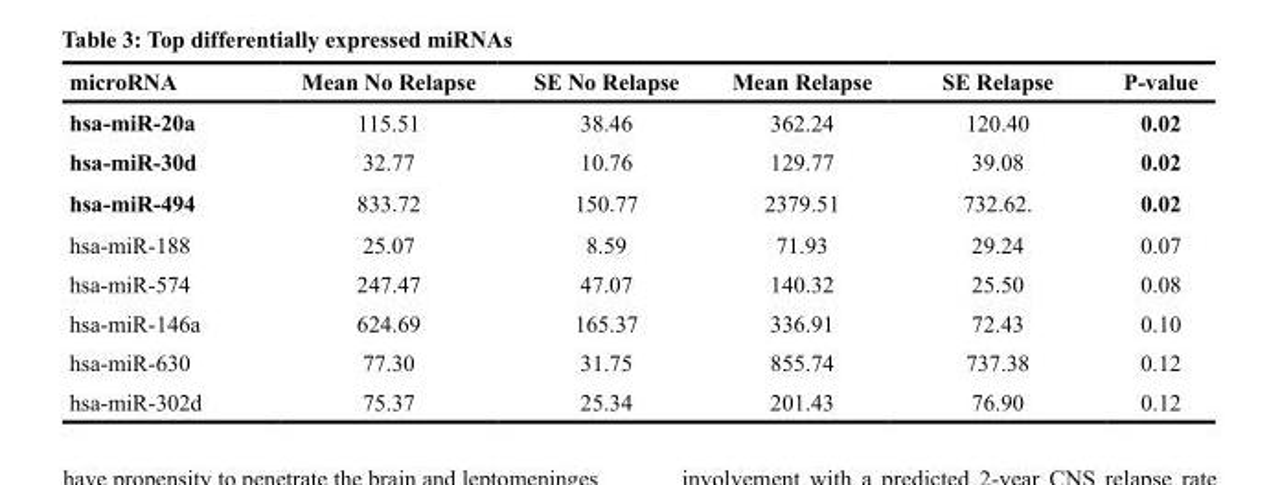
<table><thead><tr><td>microRNA</td><td>Mean No Relapse</td><td>SE No Relapse</td><td>Mean Relapse</td><td>SE Relapse</td><td>P-value</td></tr></thead><tbody><tr><td>hsa-miR-20a</td><td>115.51</td><td>38.46</td><td>362.24</td><td>120.40</td><td>0.02</td></tr><tr><td>hsa-miR-30d</td><td>32.77</td><td>10.76</td><td>129.77</td><td>39.08</td><td>0.02</td></tr><tr><td>hsa-miR-494</td><td>833.72</td><td>150.77</td><td>2379.51</td><td>732.62.</td><td>0.02</td></tr><tr><td>hsa-miR-188</td><td>25.07</td><td>8.59</td><td>71.93</td><td>29.24</td><td>0.07</td></tr><tr><td>hsa-miR-574</td><td>247.47</td><td>47.07</td><td>140.32</td><td>25.50</td><td>0.08</td></tr><tr><td>hsa-miR-146a</td><td>624.69</td><td>165.37</td><td>336.91</td><td>72.43</td><td>0.10</td></tr><tr><td>hsa-miR-630</td><td>77.30</td><td>31.75</td><td>855.74</td><td>737.38</td><td>0.12</td></tr><tr><td>hsa-miR-302d</td><td>75.37</td><td>25.34</td><td>201.43</td><td>76.90</td><td>0.12</td></tr></tbody></table>